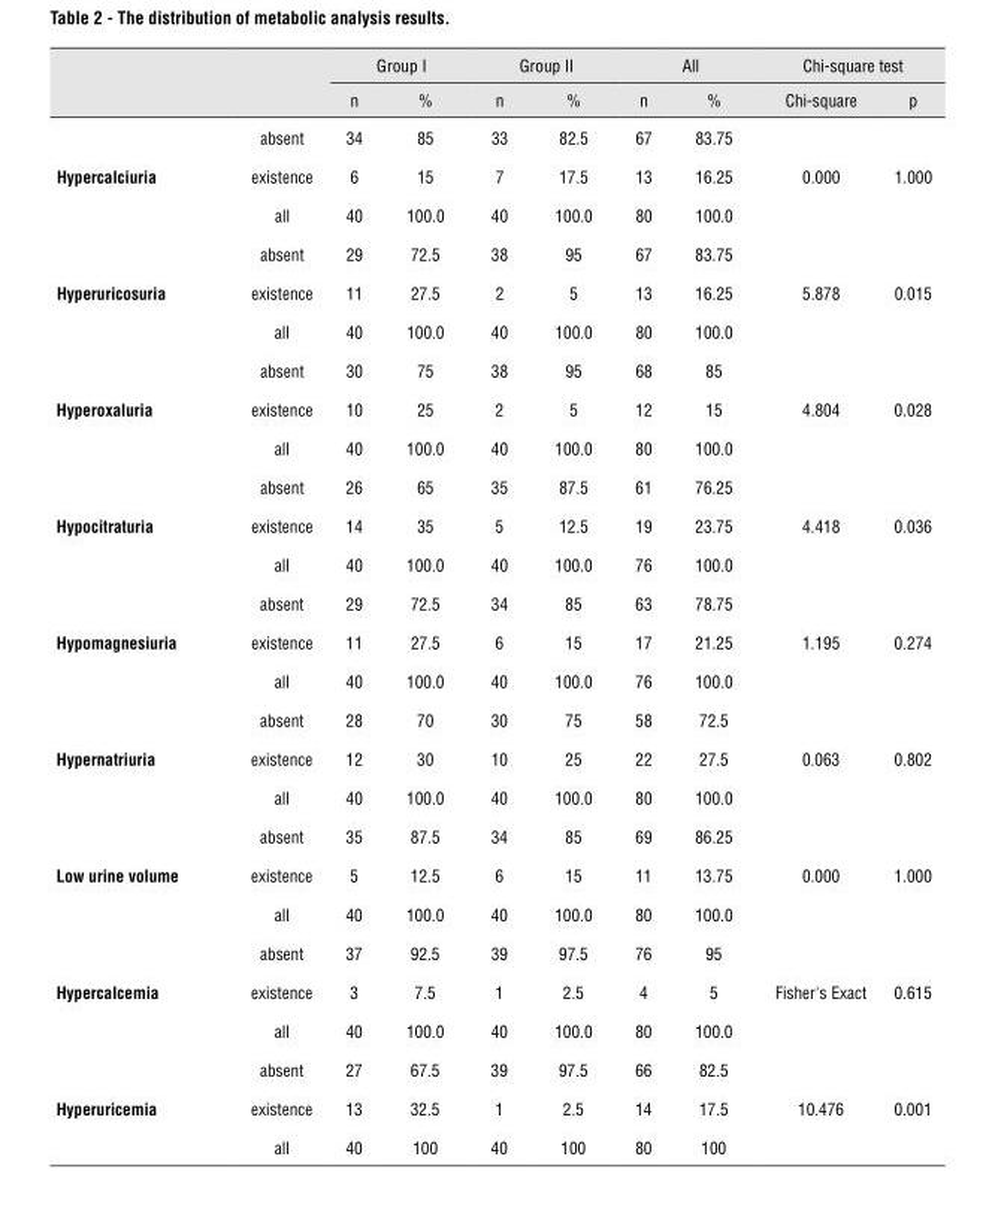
<table><thead><tr><td rowspan="2"></td><td rowspan="2"></td><td colspan="2">Group I</td><td colspan="2">Group II</td><td colspan="2">All</td><td colspan="2">Chi-square test</td></tr><tr><td>n</td><td>%</td><td>n</td><td>%</td><td>n</td><td>%</td><td>Chi-square</td><td>p</td></tr></thead><tbody><tr><td rowspan="3">hypercalciuria</td><td>absent</td><td>34</td><td>85</td><td>33</td><td>82.5</td><td>67</td><td>83.75</td><td rowspan="3">0.000</td><td rowspan="3">1.000</td></tr><tr><td>existence</td><td>6</td><td>15</td><td>7</td><td>17.5</td><td>13</td><td>16.25</td></tr><tr><td>all</td><td>40</td><td>100.0</td><td>40</td><td>100.0</td><td>80</td><td>100.0</td></tr><tr><td rowspan="3">hyperuricosuria</td><td>absent</td><td>29</td><td>72.5</td><td>38</td><td>95</td><td>67</td><td>83.75</td><td rowspan="3">5.878</td><td rowspan="3">0.015</td></tr><tr><td>existence</td><td>11</td><td>27.5</td><td>2</td><td>5</td><td>13</td><td>16.25</td></tr><tr><td>all</td><td>40</td><td>100.0</td><td>40</td><td>100.0</td><td>80</td><td>100.0</td></tr><tr><td rowspan="3">hyperoxaluria</td><td>absent</td><td>30</td><td>75</td><td>38</td><td>95</td><td>68</td><td>85</td><td rowspan="3">4.804</td><td rowspan="3">0.028</td></tr><tr><td>existence</td><td>10</td><td>25</td><td>2</td><td>5</td><td>12</td><td>15</td></tr><tr><td>all</td><td>40</td><td>100.0</td><td>40</td><td>100.0</td><td>80</td><td>100.0</td></tr><tr><td rowspan="3">hypocitraturia</td><td>absent</td><td>26</td><td>65</td><td>35</td><td>87.5</td><td>61</td><td>76.25</td><td rowspan="3">4.418</td><td rowspan="3">0.036</td></tr><tr><td>existence</td><td>14</td><td>35</td><td>5</td><td>12.5</td><td>19</td><td>23.75</td></tr><tr><td>all</td><td>40</td><td>100.0</td><td>40</td><td>100.0</td><td>76</td><td>100.0</td></tr><tr><td rowspan="3">hypomagnesiuria</td><td>absent</td><td>29</td><td>72.5</td><td>34</td><td>85</td><td>63</td><td>78.75</td><td rowspan="3">1.195</td><td rowspan="3">0.274</td></tr><tr><td>existence</td><td>11</td><td>27.5</td><td>6</td><td>15</td><td>17</td><td>21.25</td></tr><tr><td>all</td><td>40</td><td>100.0</td><td>40</td><td>100.0</td><td>76</td><td>100.0</td></tr><tr><td rowspan="3">hypernatriuria</td><td>absent</td><td>28</td><td>70</td><td>30</td><td>75</td><td>58</td><td>72.5</td><td rowspan="3">0.063</td><td rowspan="3">0.802</td></tr><tr><td>existence</td><td>12</td><td>30</td><td>10</td><td>25</td><td>22</td><td>27.5</td></tr><tr><td>all</td><td>40</td><td>100.0</td><td>40</td><td>100.0</td><td>80</td><td>100.0</td></tr><tr><td rowspan="3">Low urine volume</td><td>absent</td><td>35</td><td>87.5</td><td>34</td><td>85</td><td>69</td><td>86.25</td><td rowspan="3">0.000</td><td rowspan="3">1.000</td></tr><tr><td>existence</td><td>5</td><td>12.5</td><td>6</td><td>15</td><td>11</td><td>13.75</td></tr><tr><td>all</td><td>40</td><td>100.0</td><td>40</td><td>100.0</td><td>80</td><td>100.0</td></tr><tr><td rowspan="3">hypercalcemia</td><td>absent</td><td>37</td><td>92.5</td><td>39</td><td>97.5</td><td>76</td><td>95</td><td rowspan="3">Fisher&#x27;s Exact</td><td rowspan="3">0.615</td></tr><tr><td>existence</td><td>3</td><td>7.5</td><td>1</td><td>2.5</td><td>4</td><td>5</td></tr><tr><td>all</td><td>40</td><td>100.0</td><td>40</td><td>100.0</td><td>80</td><td>100.0</td></tr><tr><td rowspan="3">hyperuricemia</td><td>absent</td><td>27</td><td>67.5</td><td>39</td><td>97.5</td><td>66</td><td>82.5</td><td rowspan="3">10.476</td><td rowspan="3">0.001</td></tr><tr><td>existence</td><td>13</td><td>32.5</td><td>1</td><td>2.5</td><td>14</td><td>17.5</td></tr><tr><td>all</td><td>40</td><td>100</td><td>40</td><td>100</td><td>80</td><td>100</td></tr></tbody></table>